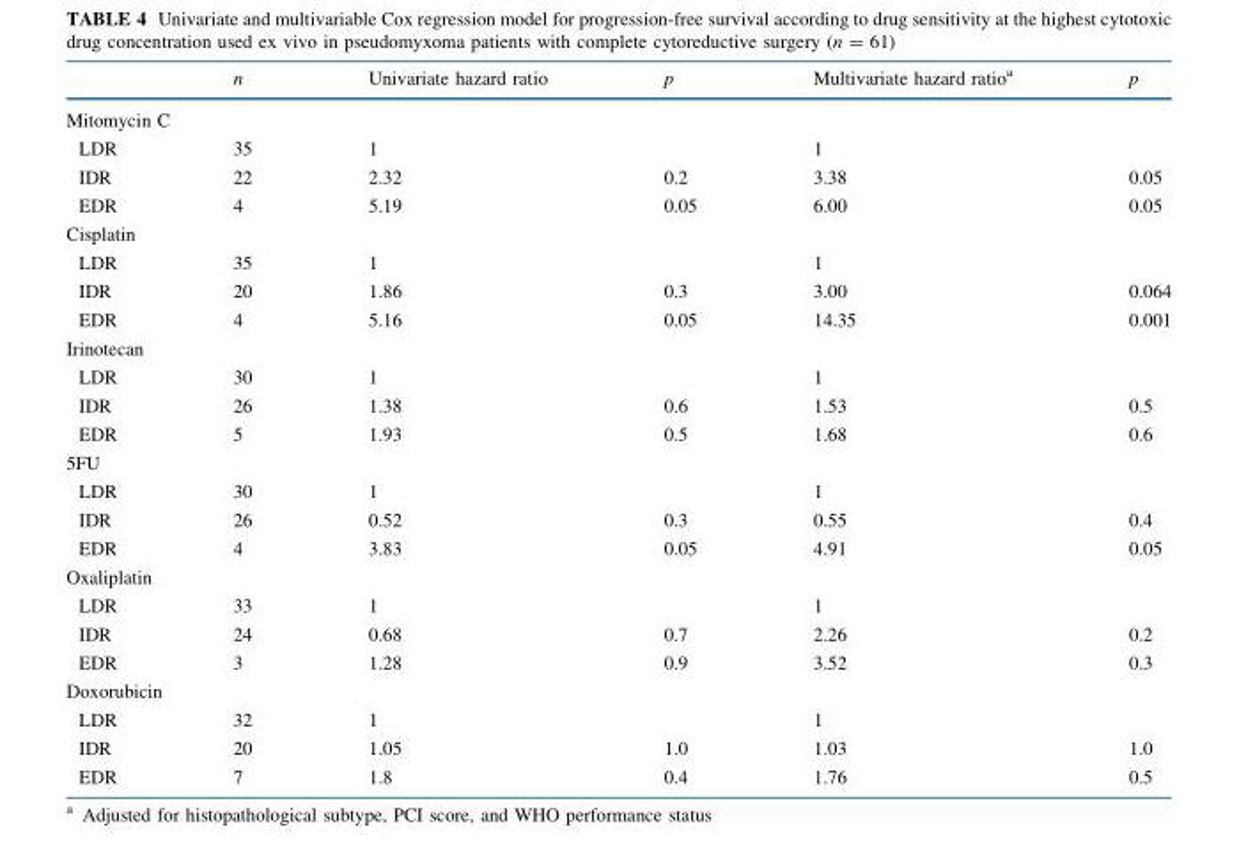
<table><thead><tr><td></td><td>n</td><td>Univariate hazard ratio</td><td>p</td><td>Multivariate hazard ratio<sup>a</sup></td><td>p</td></tr></thead><tbody><tr><td colspan="6">Mitomycin C</td></tr><tr><td>LDR</td><td>35</td><td>1</td><td></td><td>1</td><td></td></tr><tr><td>IDR</td><td>22</td><td>2.32</td><td>0.2</td><td>3.38</td><td>0.05</td></tr><tr><td>EDR</td><td>4</td><td>5.19</td><td>0.05</td><td>6.00</td><td>0.05</td></tr><tr><td colspan="6">Cisplatin</td></tr><tr><td>LDR</td><td>35</td><td>1</td><td></td><td>1</td><td></td></tr><tr><td>IDR</td><td>20</td><td>1.86</td><td>0.3</td><td>3.00</td><td>0.064</td></tr><tr><td>EDR</td><td>4</td><td>5.16</td><td>0.05</td><td>14.35</td><td>0.001</td></tr><tr><td colspan="6">Irinotecan</td></tr><tr><td>LDR</td><td>30</td><td>1</td><td></td><td>1</td><td></td></tr><tr><td>IDR</td><td>26</td><td>1.38</td><td>0.6</td><td>1.53</td><td>0.5</td></tr><tr><td>EDR</td><td>5</td><td>1.93</td><td>0.5</td><td>1.68</td><td>0.6</td></tr><tr><td colspan="6">5FU</td></tr><tr><td>LDR</td><td>30</td><td>1</td><td></td><td>1</td><td></td></tr><tr><td>IDR</td><td>26</td><td>0.52</td><td>0.3</td><td>0.55</td><td>0.4</td></tr><tr><td>EDR</td><td>4</td><td>3.83</td><td>0.05</td><td>4.91</td><td>0.05</td></tr><tr><td colspan="6">Oxaliplatin</td></tr><tr><td>LDR</td><td>33</td><td>1</td><td></td><td>1</td><td></td></tr><tr><td>IDR</td><td>24</td><td>0.68</td><td>0.7</td><td>2.26</td><td>0.2</td></tr><tr><td>EDR</td><td>3</td><td>1.28</td><td>0.9</td><td>3.52</td><td>0.3</td></tr><tr><td colspan="6">Doxorubicin</td></tr><tr><td>LDR</td><td>32</td><td>1</td><td></td><td>1</td><td></td></tr><tr><td>IDR</td><td>20</td><td>1.05</td><td>1.0</td><td>1.03</td><td>1.0</td></tr><tr><td>EDR</td><td>7</td><td>1.8</td><td>0.4</td><td>1.76</td><td>0.5</td></tr></tbody></table>